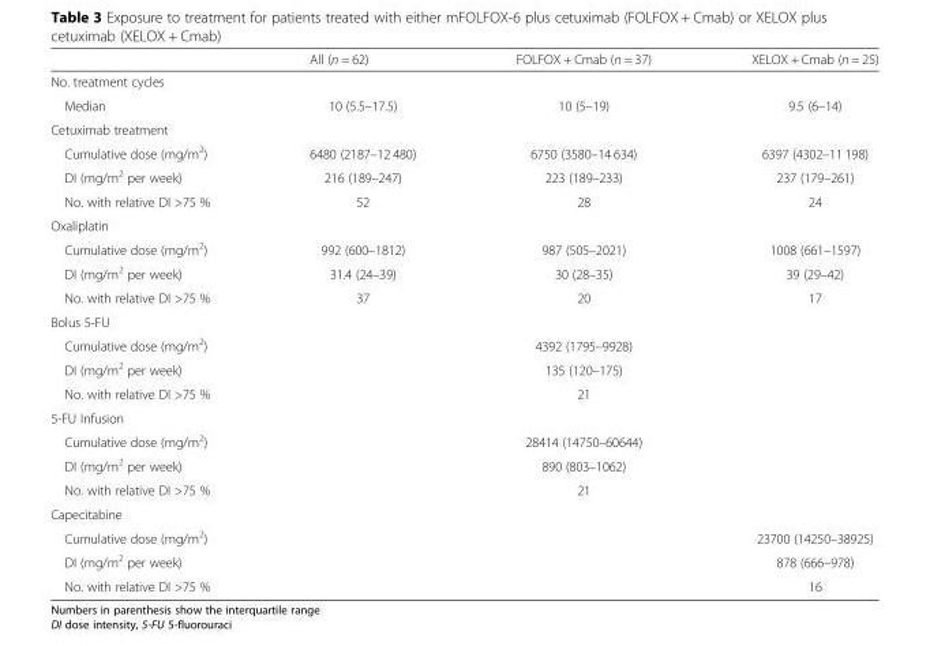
<table><thead><tr><td></td><td>All (n = 62)</td><td>FOLFOX + Cmab (n = 37)</td><td>XELOX + Cmab (n = 25)</td></tr></thead><tbody><tr><td colspan="4">No. treatment cycles</td></tr><tr><td>Median</td><td>10 (5.5–17.5)</td><td>10 (5–19)</td><td>9.5 (6–14)</td></tr><tr><td colspan="4">Cetuximab treatment</td></tr><tr><td>Cumulative dose (mg/m<sup>2</sup>)</td><td>6480 (2187–12 480)</td><td>6750 (3580–14 634)</td><td>6397 (4302–11 198)</td></tr><tr><td>DI (mg/m<sup>2</sup> per week)</td><td>216 (189–247)</td><td>223 (189–233)</td><td>237 (179–261)</td></tr><tr><td>No. with relative DI &gt;75 %</td><td>52</td><td>28</td><td>24</td></tr><tr><td colspan="4">Oxaliplatin</td></tr><tr><td>Cumulative dose (mg/m<sup>2</sup>)</td><td>992 (600–1812)</td><td>987 (505–2021)</td><td>1008 (661–1597)</td></tr><tr><td>DI (mg/m<sup>2</sup> per week)</td><td>31.4 (24–39)</td><td>30 (28–35)</td><td>39 (29–42)</td></tr><tr><td>No. with relative DI &gt;75 %</td><td>37</td><td>20</td><td>17</td></tr><tr><td colspan="4">Bolus 5-FU</td></tr><tr><td>Cumulative dose (mg/m<sup>2</sup>)</td><td></td><td>4392 (1795–9928)</td><td></td></tr><tr><td>DI (mg/m<sup>2</sup> per week)</td><td></td><td>135 (120–175)</td><td></td></tr><tr><td>No. with relative DI &gt;75 %</td><td></td><td>21</td><td></td></tr><tr><td colspan="4">5-FU Infusion</td></tr><tr><td>Cumulative dose (mg/m<sup>2</sup>)</td><td></td><td>28414 (14750–60644)</td><td></td></tr><tr><td>DI (mg/m<sup>2</sup> per week)</td><td></td><td>890 (803–1062)</td><td></td></tr><tr><td>No. with relative DI &gt;75 %</td><td></td><td>21</td><td></td></tr><tr><td colspan="4">Capecitabine</td></tr><tr><td>Cumulative dose (mg/m<sup>2</sup>)</td><td></td><td></td><td>23700 (14250–38925)</td></tr><tr><td>DI (mg/m<sup>2</sup> per week)</td><td></td><td></td><td>878 (666–978)</td></tr><tr><td>No. with relative DI &gt;75 %</td><td></td><td></td><td>16</td></tr></tbody></table>